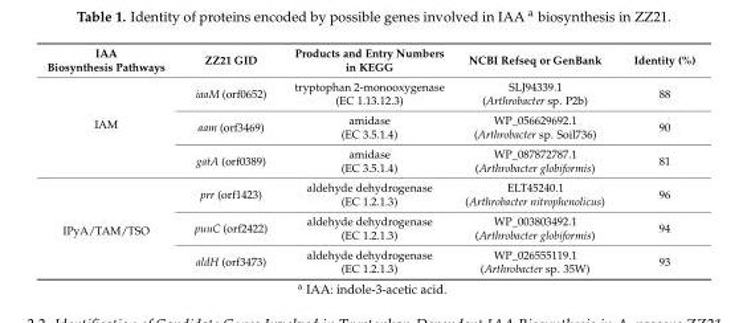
<table><thead><tr><td>IAA Biosynthesis Pathways</td><td>ZZ21 GID</td><td>Products and Entry Numbers in KEGG</td><td>NCBI Refseq or GenBank</td><td>Identity (%)</td></tr></thead><tbody><tr><td rowspan="3">IAM</td><td>iaaM (orf0652)</td><td>tryptophan 2-monooxygenase (EC 1.13.12.3)</td><td>SLJ94339.1 (Arthrobacter sp. P2b)</td><td>88</td></tr><tr><td>aam (orf3469)</td><td>amidase (EC 3.5.1.4)</td><td>WP_056629692.1 (Arthrobacter sp. Soil736)</td><td>90</td></tr><tr><td>gatA (orf0389)</td><td>amidase (EC 3.5.1.4)</td><td>WP_087872787.1 (Arthrobacter globiformis)</td><td>81</td></tr><tr><td rowspan="3">IPyA/TAM/TSO</td><td>prr (orf1423)</td><td>aldehyde dehydrogenase (EC 1.2.1.3)</td><td>ELT45240.1 (Arthrobacter nitrophenolicus)</td><td>96</td></tr><tr><td>puuC (orf2422)</td><td>aldehyde dehydrogenase (EC 1.2.1.3)</td><td>WP_003803492.1 (Arthrobacter globiformis)</td><td>94</td></tr><tr><td>aldH (orf3473)</td><td>aldehyde dehydrogenase (EC 1.2.1.3)</td><td>WP_026555119.1 (Arthrobacter sp. 35W)</td><td>93</td></tr></tbody></table>